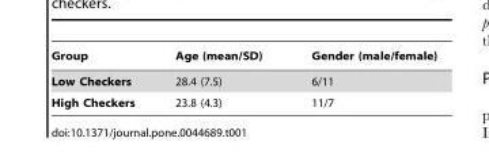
<table><thead><tr><td>Group</td><td>Age (mean/SD)</td><td>Gender (male/female)</td></tr></thead><tbody><tr><td>Low Checkers</td><td>28.4 (7.5)</td><td>6/11</td></tr><tr><td>High Checkers</td><td>23.8 (4.3)</td><td>11/7</td></tr></tbody></table>